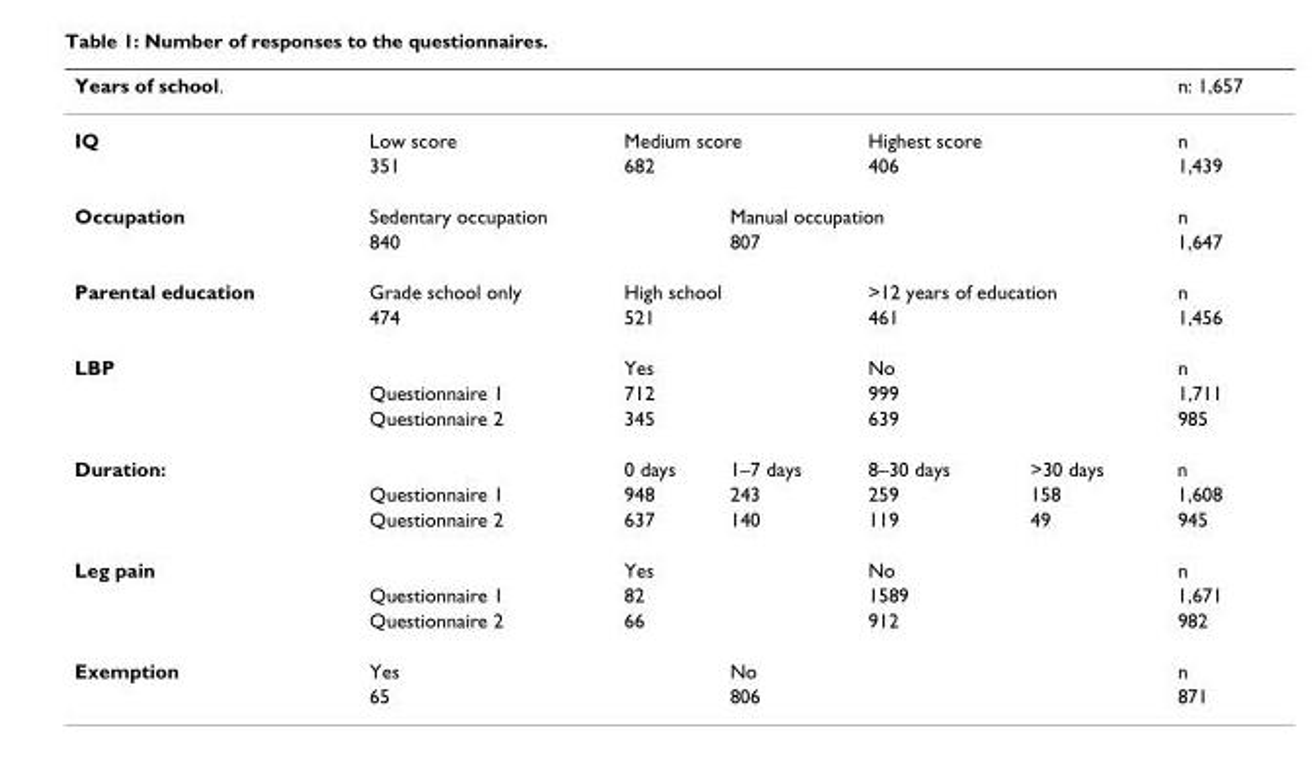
<table><thead><tr><td colspan="6">Years of school.</td><td>n: 1,657</td></tr></thead><tbody><tr><td rowspan="2">IQ</td><td>Low score</td><td colspan="2">Medium score</td><td colspan="2">Highest score</td><td>n</td></tr><tr><td>351</td><td colspan="2">682</td><td colspan="2">406</td><td>1,439</td></tr><tr><td rowspan="2">Occupation</td><td colspan="2">Sedentary occupation</td><td colspan="3">Manual occupation</td><td>n</td></tr><tr><td colspan="2">840</td><td colspan="3">807</td><td>1,647</td></tr><tr><td rowspan="2">Parental education</td><td>Grade school only</td><td colspan="2">High school</td><td colspan="2">&gt;12 years of education</td><td>n</td></tr><tr><td>474</td><td colspan="2">521</td><td colspan="2">461</td><td>1,456</td></tr><tr><td rowspan="3">LBP</td><td></td><td colspan="2">Yes</td><td colspan="2">No</td><td>n</td></tr><tr><td>Questionnaire 1</td><td colspan="2">712</td><td colspan="2">999</td><td>1,711</td></tr><tr><td>Questionnaire 2</td><td colspan="2">345</td><td colspan="2">639</td><td>985</td></tr><tr><td rowspan="3">Duration:</td><td></td><td>0 days</td><td>1–7 days</td><td>8–30 days</td><td>&gt;30 days</td><td>n</td></tr><tr><td>Questionnaire 1</td><td>948</td><td>243</td><td>259</td><td>158</td><td>1,608</td></tr><tr><td>Questionnaire 2</td><td>637</td><td>140</td><td>119</td><td>49</td><td>945</td></tr><tr><td rowspan="3">Leg pain</td><td></td><td colspan="2">Yes</td><td colspan="2">No</td><td>n</td></tr><tr><td>Questionnaire 1</td><td colspan="2">82</td><td colspan="2">1589</td><td>1,671</td></tr><tr><td>Questionnaire 2</td><td colspan="2">66</td><td colspan="2">912</td><td>982</td></tr><tr><td rowspan="2">Exemption</td><td colspan="2">Yes</td><td colspan="3">No</td><td>n</td></tr><tr><td colspan="2">65</td><td colspan="3">806</td><td>871</td></tr></tbody></table>